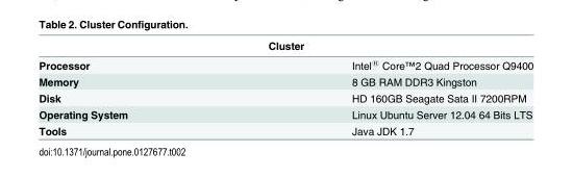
<table><thead><tr><td colspan="2">Cluster</td></tr><tr><td>Processor</td><td>Intel® Core™2 Quad Processor Q9400</td></tr></thead><tbody><tr><td>Memory</td><td>8 GB RAM DDR3 Kingston</td></tr><tr><td>Disk</td><td>HD 160GB Seagate Sata II 7200RPM</td></tr><tr><td>Operating System</td><td>Linux Ubuntu Server 12.04 64 Bits LTS</td></tr><tr><td>Tools</td><td>Java JDK 1.7</td></tr></tbody></table>